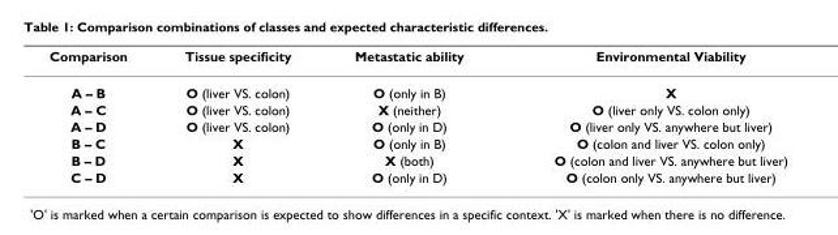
<table><thead><tr><td>Comparison</td><td>Tissue specificity</td><td>Metastatic ability</td><td>Environmental Viability</td></tr></thead><tbody><tr><td>A – B</td><td>O (liver VS. colon)</td><td>O (only in B)</td><td>X</td></tr><tr><td>A – C</td><td>O (liver VS. colon)</td><td>X (neither)</td><td>O (liver only VS. colon only)</td></tr><tr><td>A – D</td><td>O (liver VS. colon)</td><td>O (only in D)</td><td>O (liver only VS. anywhere but liver)</td></tr><tr><td>B – C</td><td>X</td><td>O (only in B)</td><td>O (colon and liver VS. colon only)</td></tr><tr><td>B – D</td><td>X</td><td>X (both)</td><td>O (colon and liver VS. anywhere but liver)</td></tr><tr><td>C – D</td><td>X</td><td>O (only in D)</td><td>O (colon only VS. anywhere but liver)</td></tr></tbody></table>